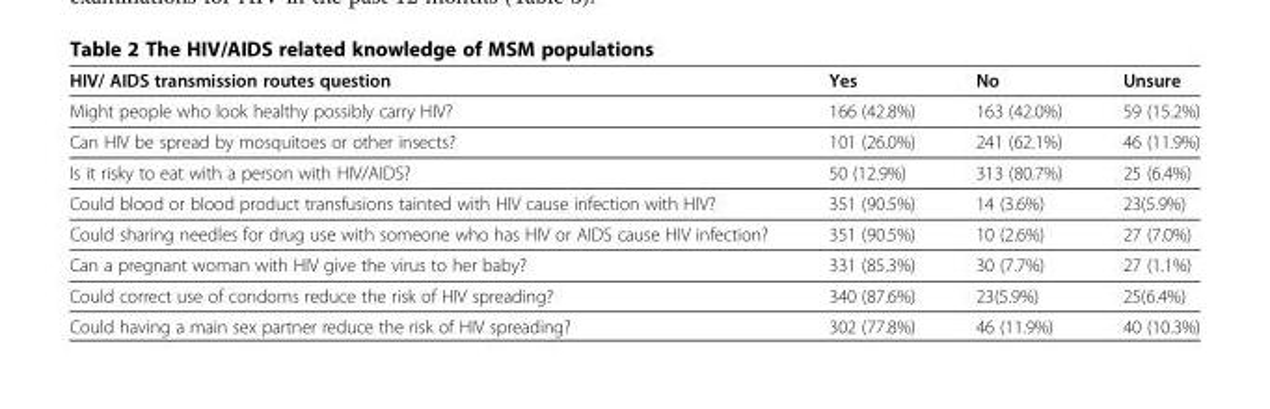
<table><thead><tr><td>HIV/ AIDS transmission routes question</td><td>Yes</td><td>No</td><td>Unsure</td></tr></thead><tbody><tr><td>Might people who look healthy possibly carry HIV?</td><td>166 (42.8%)</td><td>163 (42.0%)</td><td>59 (15.2%)</td></tr><tr><td>Can HIV be spread by mosquitoes or other insects?</td><td>101 (26.0%)</td><td>241 (62.1%)</td><td>46 (11.9%)</td></tr><tr><td>Is it risky to eat with a person with HIV/AIDS?</td><td>50 (12.9%)</td><td>313 (80.7%)</td><td>25 (6.4%)</td></tr><tr><td>Could blood or blood product transfusions tainted with HIV cause infection with HIV?</td><td>351 (90.5%)</td><td>14 (3.6%)</td><td>23(5.9%)</td></tr><tr><td>Could sharing needles for drug use with someone who has HIV or AIDS cause HIV infection?</td><td>351 (90.5%)</td><td>10 (2.6%)</td><td>27 (7.0%)</td></tr><tr><td>Can a pregnant woman with HIV give the virus to her baby?</td><td>331 (85.3%)</td><td>30 (7.7%)</td><td>27 (1.1%)</td></tr><tr><td>Could correct use of condoms reduce the risk of HIV spreading?</td><td>340 (87.6%)</td><td>23(5.9%)</td><td>25(6.4%)</td></tr><tr><td>Could having a main sex partner reduce the risk of HIV spreading?</td><td>302 (77.8%)</td><td>46 (11.9%)</td><td>40 (10.3%)</td></tr></tbody></table>